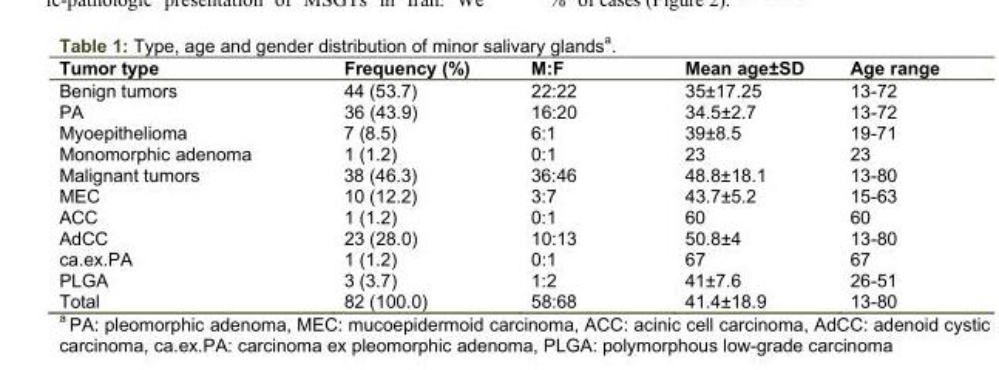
<table><thead><tr><td>Tumor type</td><td>Frequency (%)</td><td>M:F</td><td>Mean age±SD</td><td>Age range</td></tr></thead><tbody><tr><td>Benign tumors</td><td>44 (53.7)</td><td>22:22</td><td>35±17.25</td><td>13-72</td></tr><tr><td>PA</td><td>36 (43.9)</td><td>16:20</td><td>34.5±2.7</td><td>13-72</td></tr><tr><td>Myoepithelioma</td><td>7 (8.5)</td><td>6:1</td><td>39±8.5</td><td>19-71</td></tr><tr><td>Monomorphic adenoma</td><td>1 (1.2)</td><td>0:1</td><td>23</td><td>23</td></tr><tr><td>Malignant tumors</td><td>38 (46.3)</td><td>36:46</td><td>48.8±18.1</td><td>13-80</td></tr><tr><td>MEC</td><td>10 (12.2)</td><td>3:7</td><td>43.7±5.2</td><td>15-63</td></tr><tr><td>ACC</td><td>1 (1.2)</td><td>0:1</td><td>60</td><td>60</td></tr><tr><td>AdCC</td><td>23 (28.0)</td><td>10:13</td><td>50.8±4</td><td>13-80</td></tr><tr><td>ca.ex.PA</td><td>1 (1.2)</td><td>0:1</td><td>67</td><td>67</td></tr><tr><td>PLGA</td><td>3 (3.7)</td><td>1:2</td><td>41±7.6</td><td>26-51</td></tr><tr><td>Total</td><td>82 (100.0)</td><td>58:68</td><td>41.4±18.9</td><td>13-80</td></tr></tbody></table>